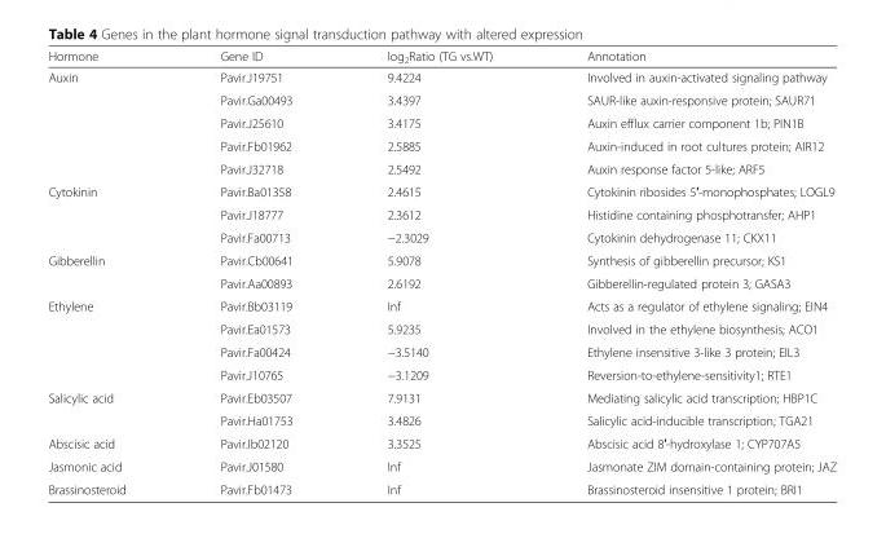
<table><thead><tr><td>Hormone</td><td>Gene ID</td><td>log<sub>2</sub>Ratio (TG vs.WT)</td><td>Annotation</td></tr></thead><tbody><tr><td rowspan="5">Auxin</td><td>Pavir.J19751</td><td>9.4224</td><td>Involved in auxin-activated signaling pathway</td></tr><tr><td>Pavir.Ga00493</td><td>3.4397</td><td>SAUR-like auxin-responsive protein; SAUR71</td></tr><tr><td>Pavir.J25610</td><td>3.4175</td><td>Auxin efflux carrier component 1b; PIN1B</td></tr><tr><td>Pavir.Fb01962</td><td>2.5885</td><td>Auxin-induced in root cultures protein; AIR12</td></tr><tr><td>Pavir.J32718</td><td>2.5492</td><td>Auxin response factor 5-like; ARF5</td></tr><tr><td rowspan="3">Cytokinin</td><td>Pavir.Ba01358</td><td>2.4615</td><td>Cytokinin ribosides 5′-monophosphates; LOGL9</td></tr><tr><td>Pavir.J18777</td><td>2.3612</td><td>Histidine containing phosphotransfer; AHP1</td></tr><tr><td>Pavir.Fa00713</td><td>−2.3029</td><td>Cytokinin dehydrogenase 11; CKX11</td></tr><tr><td rowspan="2">Gibberellin</td><td>Pavir.Cb00641</td><td>5.9078</td><td>Synthesis of gibberellin precursor; KS1</td></tr><tr><td>Pavir.Aa00893</td><td>2.6192</td><td>Gibberellin-regulated protein 3; GASA3</td></tr><tr><td rowspan="4">Ethylene</td><td>Pavir.Bb03119</td><td>Inf</td><td>Acts as a regulator of ethylene signaling; EIN4</td></tr><tr><td>Pavir.Ea01573</td><td>5.9235</td><td>Involved in the ethylene biosynthesis; ACO1</td></tr><tr><td>Pavir.Fa00424</td><td>−3.5140</td><td>Ethylene insensitive 3-like 3 protein; EIL3</td></tr><tr><td>Pavir.J10765</td><td>−3.1209</td><td>Reversion-to-ethylene-sensitivity1; RTE1</td></tr><tr><td rowspan="2">Salicylic acid</td><td>Pavir.Eb03507</td><td>7.9131</td><td>Mediating salicylic acid transcription; HBP1C</td></tr><tr><td>Pavir.Ha01753</td><td>3.4826</td><td>Salicylic acid-inducible transcription; TGA21</td></tr><tr><td>Abscisic acid</td><td>Pavir.Ib02120</td><td>3.3525</td><td>Abscisic acid 8′-hydroxylase 1; CYP707A5</td></tr><tr><td>Jasmonic acid</td><td>Pavir.J01580</td><td>Inf</td><td>Jasmonate ZIM domain-containing protein; JAZ</td></tr><tr><td>Brassinosteroid</td><td>Pavir.Fb01473</td><td>Inf</td><td>Brassinosteroid insensitive 1 protein; BRI1</td></tr></tbody></table>